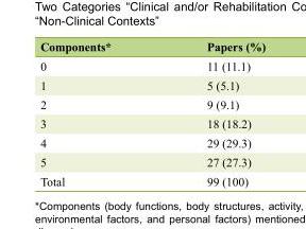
<table><thead><tr><td>Components*</td><td>Papers (%)</td></tr></thead><tbody><tr><td>0</td><td>11 (11.1)</td></tr><tr><td>1</td><td>5 (5.1)</td></tr><tr><td>2</td><td>9 (9.1)</td></tr><tr><td>3</td><td>18 (18.2)</td></tr><tr><td>4</td><td>29 (29.3)</td></tr><tr><td>5</td><td>27 (27.3)</td></tr><tr><td>Total</td><td>99 (100)</td></tr></tbody></table>